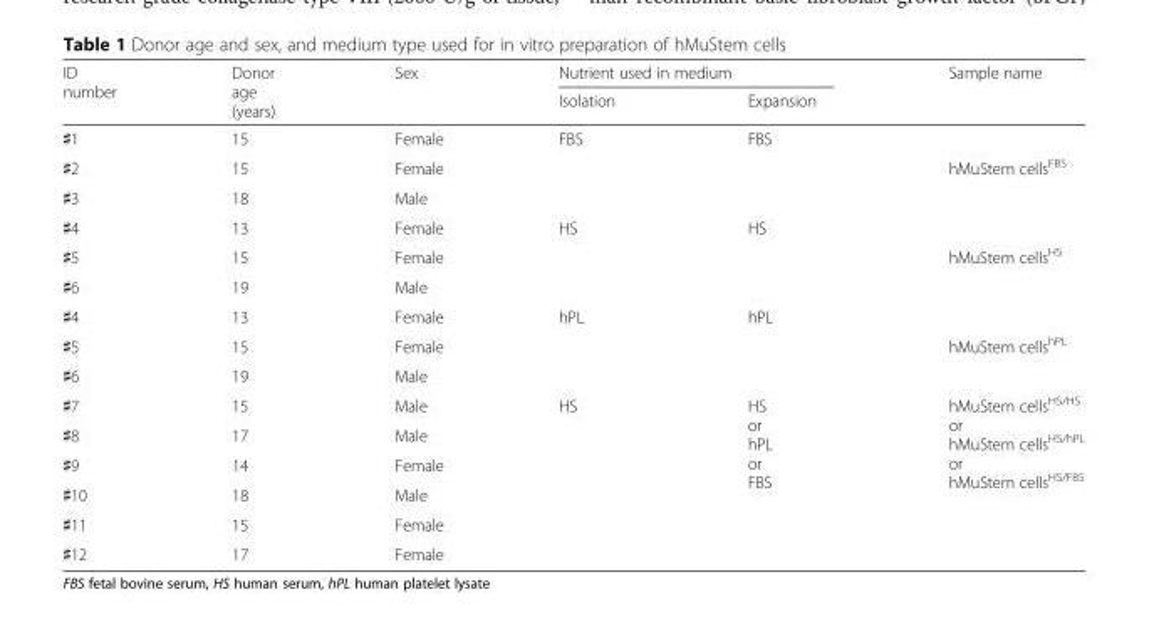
<table><thead><tr><td rowspan="2">ID number</td><td rowspan="2">Donor age (years)</td><td rowspan="2">Sex</td><td colspan="2">Nutrient used in medium</td><td rowspan="2">Sample name</td></tr><tr><td>Isolation</td><td>Expansion</td></tr></thead><tbody><tr><td>♯1</td><td>15</td><td>Female</td><td rowspan="3">FBS</td><td rowspan="3">FBS</td><td></td></tr><tr><td>♯2</td><td>15</td><td>Female</td><td>hMuStem cells<sup>FBS</sup></td></tr><tr><td>♯3</td><td>18</td><td>Male</td><td></td></tr><tr><td>♯4</td><td>13</td><td>Female</td><td rowspan="3">HS</td><td rowspan="3">HS</td><td></td></tr><tr><td>♯5</td><td>15</td><td>Female</td><td>hMuStem cells<sup>HS</sup></td></tr><tr><td>♯6</td><td>19</td><td>Male</td><td></td></tr><tr><td>♯4</td><td>13</td><td>Female</td><td rowspan="3">hPL</td><td rowspan="3">hPL</td><td></td></tr><tr><td>♯5</td><td>15</td><td>Female</td><td>hMuStem cells<sup>hPL</sup></td></tr><tr><td>♯6</td><td>19</td><td>Male</td><td></td></tr><tr><td>♯7</td><td>15</td><td>Male</td><td rowspan="6">HS</td><td rowspan="6">HS or hPL or FBS</td><td rowspan="6">hMuStem cells<sup>HS/HS</sup> or hMuStem cells<sup>HS/hPL</sup> or hMuStem cells<sup>HS/FBS</sup></td></tr><tr><td>♯8</td><td>17</td><td>Male</td></tr><tr><td>♯9</td><td>14</td><td>Female</td></tr><tr><td>♯10</td><td>18</td><td>Male</td></tr><tr><td>♯11</td><td>15</td><td>Female</td></tr><tr><td>♯12</td><td>17</td><td>Female</td></tr></tbody></table>